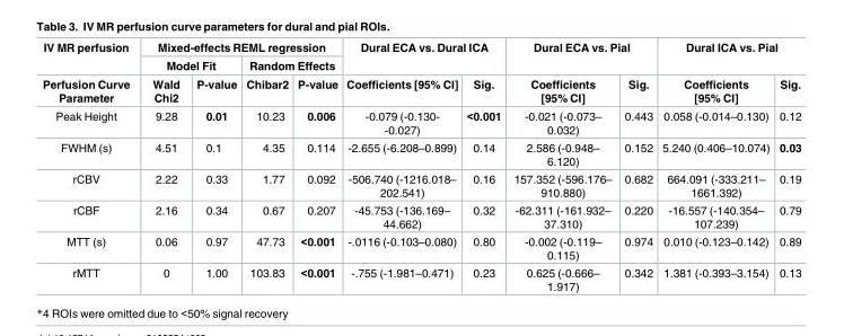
<table><thead><tr><td rowspan="3">IV MR perfusion Perfusion Curve Parameter</td><td colspan="4">Mixed-effects REML regression</td><td rowspan="2" colspan="2">Dural ECA vs. Dural ICA</td><td rowspan="2" colspan="2">Dural ECA vs. Pial</td><td rowspan="2" colspan="2">Dural ICA vs. Pial</td></tr><tr><td colspan="2">Model Fit</td><td colspan="2">Random Effects</td></tr><tr><td>Wald Chi2</td><td>P-value</td><td>Chibar2</td><td>P-value</td><td>Coefficients [95% CI]</td><td>Sig.</td><td>Coefficients [95% CI]</td><td>Sig.</td><td>Coefficients [95% CI]</td><td>Sig.</td></tr></thead><tbody><tr><td>Peak Height</td><td>9.28</td><td>0.01</td><td>10.23</td><td>0.006</td><td>-0.079 (-0.130- -0.027)</td><td>&lt;0.001</td><td>-0.021 (-0.073– 0.032)</td><td>0.443</td><td>0.058 (-0.014–0.130)</td><td>0.12</td></tr><tr><td>FWHM (s)</td><td>4.51</td><td>0.1</td><td>4.35</td><td>0.114</td><td>-2.655 (-6.208–0.899)</td><td>0.14</td><td>2.586 (-0.948– 6.120)</td><td>0.152</td><td>5.240 (0.406–10.074)</td><td>0.03</td></tr><tr><td>rCBV</td><td>2.22</td><td>0.33</td><td>1.77</td><td>0.092</td><td>-506.740 (-1216.018– 202.541)</td><td>0.16</td><td>157.352 (-596.176– 910.880)</td><td>0.682</td><td>664.091 (-333.211– 1661.392)</td><td>0.19</td></tr><tr><td>rCBF</td><td>2.16</td><td>0.34</td><td>0.67</td><td>0.207</td><td>-45.753 (-136.169– 44.662)</td><td>0.32</td><td>-62.311 (-161.932– 37.310)</td><td>0.220</td><td>-16.557 (-140.354– 107.239)</td><td>0.79</td></tr><tr><td>MTT (s)</td><td>0.06</td><td>0.97</td><td>47.73</td><td>&lt;0.001</td><td>-.0116 (-0.103–0.080)</td><td>0.80</td><td>-0.002 (-0.119– 0.115)</td><td>0.974</td><td>0.010 (-0.123–0.142)</td><td>0.89</td></tr><tr><td>rMTT</td><td>0</td><td>1.00</td><td>103.83</td><td>&lt;0.001</td><td>-.755 (-1.981–0.471)</td><td>0.23</td><td>0.625 (-0.666– 1.917)</td><td>0.342</td><td>1.381 (-0.393–3.154)</td><td>0.13</td></tr></tbody></table>